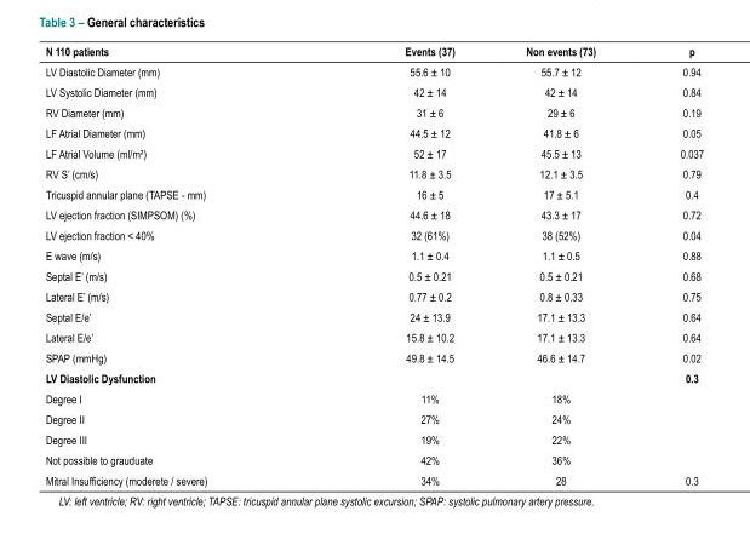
<table><thead><tr><td>N 110 patients</td><td>Events (37)</td><td>Non events (73)</td><td>p</td></tr></thead><tbody><tr><td>LV Diastolic Diameter (mm)</td><td>55.6 ± 10</td><td>55.7 ± 12</td><td>0.94</td></tr><tr><td>LV Systolic Diameter (mm)</td><td>42 ± 14</td><td>42 ± 14</td><td>0.84</td></tr><tr><td>RV Diameter (mm)</td><td>31 ± 6</td><td>29 ± 6</td><td>0.19</td></tr><tr><td>LF Atrial Diameter (mm)</td><td>44.5 ± 12</td><td>41.8 ± 6</td><td>0.05</td></tr><tr><td>LF Atrial Volume (ml/m²)</td><td>52 ± 17</td><td>45.5 ± 13</td><td>0.037</td></tr><tr><td>RV S’ (cm/s)</td><td>11.8 ± 3.5</td><td>12.1 ± 3.5</td><td>0.79</td></tr><tr><td>Tricuspid annular plane (TAPSE - mm)</td><td>16 ± 5</td><td>17 ± 5.1</td><td>0.4</td></tr><tr><td>LV ejection fraction (SIMPSOM) (%)</td><td>44.6 ± 18</td><td>43.3 ± 17</td><td>0.72</td></tr><tr><td>LV ejection fraction &lt; 40%</td><td>32 (61%)</td><td>38 (52%)</td><td>0.04</td></tr><tr><td>E wave (m/s)</td><td>1.1 ± 0.4</td><td>1.1 ± 0.5</td><td>0.88</td></tr><tr><td>Septal E’ (m/s)</td><td>0.5 ± 0.21</td><td>0.5 ± 0.21</td><td>0.68</td></tr><tr><td>Lateral E’ (m/s)</td><td>0.77 ± 0.2</td><td>0.8 ± 0.33</td><td>0.75</td></tr><tr><td>Septal E/e’</td><td>24 ± 13.9</td><td>17.1 ± 13.3</td><td>0.64</td></tr><tr><td>Lateral E/e’</td><td>15.8 ± 10.2</td><td>17.1 ± 13.3</td><td>0.64</td></tr><tr><td>SPAP (mmHg)</td><td>49.8 ± 14.5</td><td>46.6 ± 14.7</td><td>0.02</td></tr><tr><td>LV Diastolic Dysfunction</td><td></td><td></td><td>0.3</td></tr><tr><td>Degree I</td><td>11%</td><td>18%</td><td></td></tr><tr><td>Degree II</td><td>27%</td><td>24%</td><td></td></tr><tr><td>Degree III</td><td>19%</td><td>22%</td><td></td></tr><tr><td>Not possible to grauduate</td><td>42%</td><td>36%</td><td></td></tr><tr><td>Mitral Insufficiency (moderete / severe)</td><td>34%</td><td>28</td><td>0.3</td></tr></tbody></table>